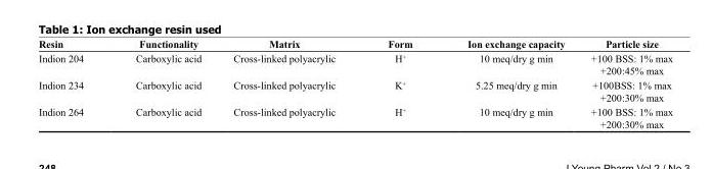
<table><thead><tr><td>Resin</td><td>Functionality</td><td>Matrix</td><td>Form</td><td>Ion exchange capacity</td><td>Particle size</td></tr></thead><tbody><tr><td>Indion 204</td><td>Carboxylic acid</td><td>Cross-linked polyacrylic</td><td>H<sup>+</sup></td><td>10 meq/dry g min</td><td>+100 BSS: 1% max +200:45% max</td></tr><tr><td>Indion 234</td><td>Carboxylic acid</td><td>Cross-linked polyacrylic</td><td>K<sup>+</sup></td><td>5.25 meq/dry g min</td><td>+100BSS: 1% max +200:30% max</td></tr><tr><td>Indion 264</td><td>Carboxylic acid</td><td>Cross-linked polyacrylic</td><td>H<sup>+</sup></td><td>10 meq/dry g min</td><td>+100 BSS: 1% max +200:30% max</td></tr></tbody></table>